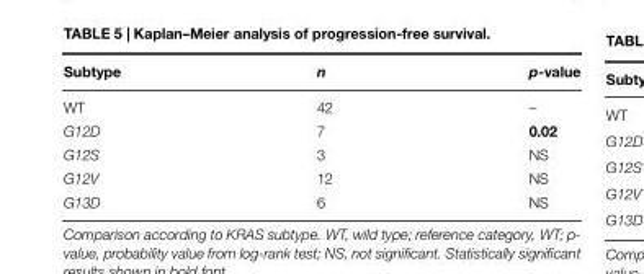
<table><thead><tr><td>Subtype</td><td>n</td><td>p-value</td></tr></thead><tbody><tr><td>WT</td><td>42</td><td>–</td></tr><tr><td>G12D</td><td>7</td><td>0.02</td></tr><tr><td>G12S</td><td>3</td><td>NS</td></tr><tr><td>G12V</td><td>12</td><td>NS</td></tr><tr><td>G13D</td><td>6</td><td>NS</td></tr></tbody></table>